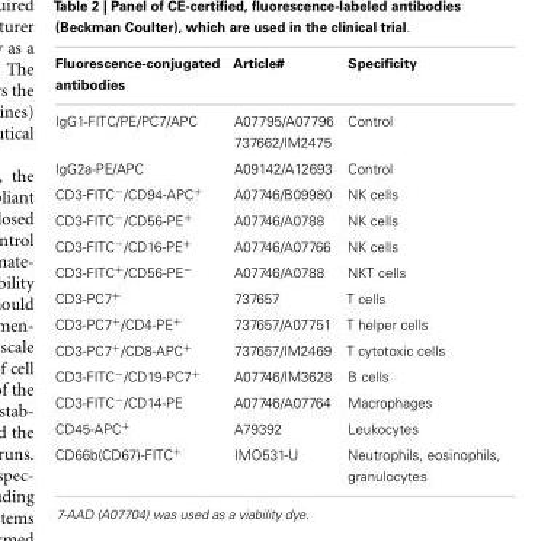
<table><thead><tr><td>Fluorescence-conjugated antibodies</td><td>Article#</td><td>Specificity</td></tr></thead><tbody><tr><td rowspan="2">IgG1-FITC/PE/PC7/APC</td><td>A07795/A07796</td><td>Control</td></tr><tr><td>737662/IM2475</td><td></td></tr><tr><td>IgG2a-PE/APC</td><td>A09142/A12693</td><td>Control</td></tr><tr><td>CD3-FITC<sup>−</sup>/CD94-APC<sup>+</sup></td><td>A07746/B09980</td><td>NK cells</td></tr><tr><td>CD3-FITC<sup>−</sup>/CD56-PE<sup>+</sup></td><td>A07746/A0788</td><td>NK cells</td></tr><tr><td>CD3-FITC<sup>−</sup>/CD16-PE<sup>+</sup></td><td>A07746/A07766</td><td>NK cells</td></tr><tr><td>CD3-FITC<sup>+</sup>/CD56-PE<sup>−</sup></td><td>A07746/A0788</td><td>NKT cells</td></tr><tr><td>CD3-PC7<sup>+</sup></td><td>737657</td><td>T cells</td></tr><tr><td>CD3-PC7<sup>+</sup>/CD4-PE<sup>+</sup></td><td>737657/A07751</td><td>T helper cells</td></tr><tr><td>CD3-PC7<sup>+</sup>/CD8-APC<sup>+</sup></td><td>737657/IM2469</td><td>T cytotoxic cells</td></tr><tr><td>CD3-FITC<sup>−</sup>/CD19-PC7<sup>+</sup></td><td>A07746/IM3628</td><td>B cells</td></tr><tr><td>CD3-FITC<sup>−</sup>/CD14-PE</td><td>A07746/A07764</td><td>Macrophages</td></tr><tr><td>CD45-APC<sup>+</sup></td><td>A79392</td><td>Leukocytes</td></tr><tr><td>CD66b(CD67)-FITC<sup>+</sup></td><td>IMO531-U</td><td>Neutrophils, eosinophils, granulocytes</td></tr></tbody></table>